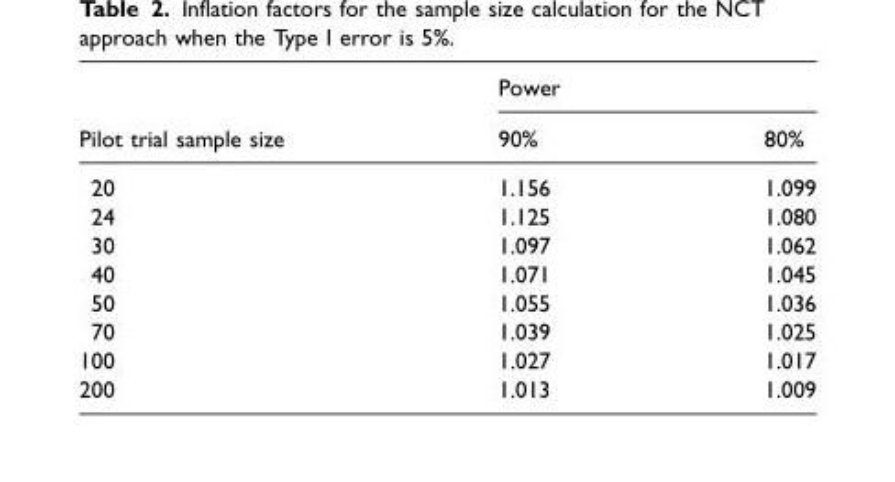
<table><thead><tr><td rowspan="2">Pilot trial sample size</td><td colspan="2">Power</td></tr><tr><td>90%</td><td>80%</td></tr></thead><tbody><tr><td>20</td><td>1.156</td><td>1.099</td></tr><tr><td>24</td><td>1.125</td><td>1.080</td></tr><tr><td>30</td><td>1.097</td><td>1.062</td></tr><tr><td>40</td><td>1.071</td><td>1.045</td></tr><tr><td>50</td><td>1.055</td><td>1.036</td></tr><tr><td>70</td><td>1.039</td><td>1.025</td></tr><tr><td>100</td><td>1.027</td><td>1.017</td></tr><tr><td>200</td><td>1.013</td><td>1.009</td></tr></tbody></table>